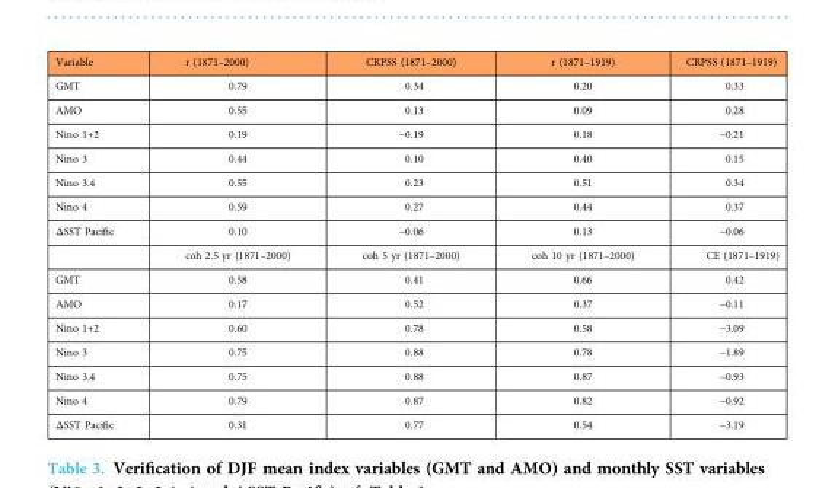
<table><thead><tr><td>Variable</td><td>r (1871–2000)</td><td>CRPSS (1871–2000)</td><td>r (1871–1919)</td><td>CRPSS (1871–1919)</td></tr></thead><tbody><tr><td>GMT</td><td>0.79</td><td>0.34</td><td>0.20</td><td>0.33</td></tr><tr><td>AMO</td><td>0.55</td><td>0.13</td><td>0.09</td><td>0.28</td></tr><tr><td>Nino 1+2</td><td>0.19</td><td>−0.19</td><td>0.18</td><td>−0.21</td></tr><tr><td>Nino 3</td><td>0.44</td><td>0.10</td><td>0.40</td><td>0.15</td></tr><tr><td>Nino 3.4</td><td>0.55</td><td>0.23</td><td>0.51</td><td>0.34</td></tr><tr><td>Nino 4</td><td>0.59</td><td>0.27</td><td>0.44</td><td>0.37</td></tr><tr><td rowspan="2">ΔSST Pacific</td><td>0.10</td><td>−0.06</td><td>0.13</td><td>−0.06</td></tr><tr><td>coh 2.5 yr (1871–2000)</td><td>coh 5 yr (1871–2000)</td><td>coh 10 yr (1871–2000)</td><td>CE (1871–1919)</td></tr><tr><td>GMT</td><td>0.58</td><td>0.41</td><td>0.66</td><td>0.42</td></tr><tr><td>AMO</td><td>0.17</td><td>0.52</td><td>0.37</td><td>−0.11</td></tr><tr><td>Nino 1+2</td><td>0.60</td><td>0.78</td><td>0.58</td><td>−3.09</td></tr><tr><td>Nino 3</td><td>0.75</td><td>0.88</td><td>0.78</td><td>−1.89</td></tr><tr><td>Nino 3.4</td><td>0.75</td><td>0.88</td><td>0.87</td><td>−0.93</td></tr><tr><td>Nino 4</td><td>0.79</td><td>0.87</td><td>0.82</td><td>−0.92</td></tr><tr><td>ΔSST Pacific</td><td>0.31</td><td>0.77</td><td>0.54</td><td>−3.19</td></tr></tbody></table>